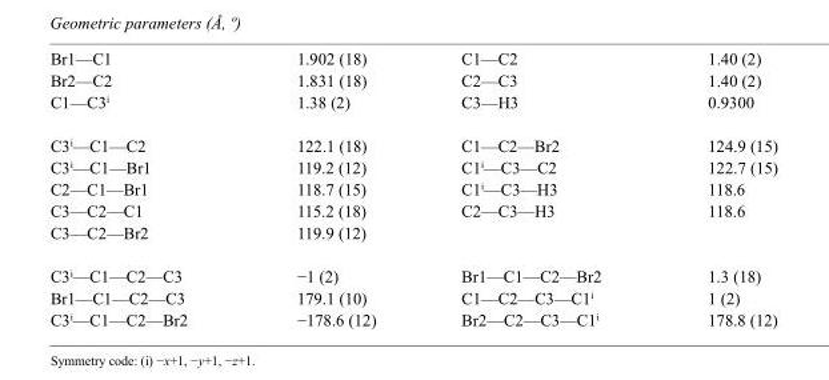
<table><tbody><tr><td>Br1—C1</td><td>1.902 (18)</td><td>C1—C2</td><td>1.40 (2)</td></tr><tr><td>Br2—C2</td><td>1.831 (18)</td><td>C2—C3</td><td>1.40 (2)</td></tr><tr><td>C1—C3<sup>i</sup></td><td>1.38 (2)</td><td>C3—H3</td><td>0.9300</td></tr><tr><td>C3<sup>i</sup>—C1—C2</td><td>122.1 (18)</td><td>C1—C2—Br2</td><td>124.9 (15)</td></tr><tr><td>C3<sup>i</sup>—C1—Br1</td><td>119.2 (12)</td><td>C1<sup>i</sup>—C3—C2</td><td>122.7 (15)</td></tr><tr><td>C2—C1—Br1</td><td>118.7 (15)</td><td>C1<sup>i</sup>—C3—H3</td><td>118.6</td></tr><tr><td>C3—C2—C1</td><td>115.2 (18)</td><td>C2—C3—H3</td><td>118.6</td></tr><tr><td>C3—C2—Br2</td><td>119.9 (12)</td><td></td><td></td></tr><tr><td>C3<sup>i</sup>—C1—C2—C3</td><td>−1 (2)</td><td>Br1—C1—C2—Br2</td><td>1.3 (18)</td></tr><tr><td>Br1—C1—C2—C3</td><td>179.1 (10)</td><td>C1—C2—C3—C1<sup>i</sup></td><td>1 (2)</td></tr><tr><td>C3<sup>i</sup>—C1—C2—Br2</td><td>−178.6 (12)</td><td>Br2—C2—C3—C1<sup>i</sup></td><td>178.8 (12)</td></tr></tbody></table>